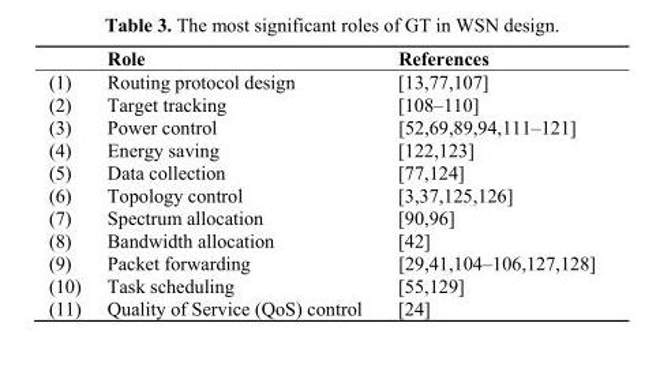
<table><thead><tr><td></td><td>Role</td><td>References</td></tr></thead><tbody><tr><td>(1)</td><td>Routing protocol design</td><td>[13,77,107]</td></tr><tr><td>(2)</td><td>Target tracking</td><td>[108–110]</td></tr><tr><td>(3)</td><td>Power control</td><td>[52,69,89,94,111–121]</td></tr><tr><td>(4)</td><td>Energy saving</td><td>[122,123]</td></tr><tr><td>(5)</td><td>Data collection</td><td>[77,124]</td></tr><tr><td>(6)</td><td>Topology control</td><td>[3,37,125,126]</td></tr><tr><td>(7)</td><td>Spectrum allocation</td><td>[90,96]</td></tr><tr><td>(8)</td><td>Bandwidth allocation</td><td>[42]</td></tr><tr><td>(9)</td><td>Packet forwarding</td><td>[29,41,104–106,127,128]</td></tr><tr><td>(10)</td><td>Task scheduling</td><td>[55,129]</td></tr><tr><td>(11)</td><td>Quality of Service (QoS) control</td><td>[24]</td></tr></tbody></table>